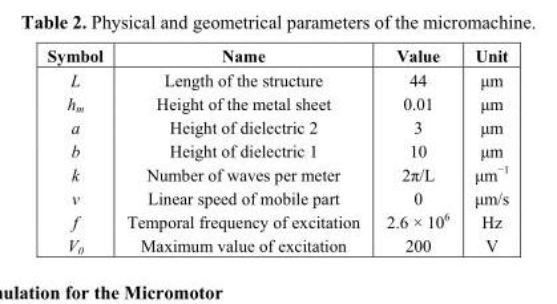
<table><thead><tr><td>Symbol</td><td>Name</td><td>Value</td><td>Unit</td></tr></thead><tbody><tr><td>L</td><td>Length of the structure</td><td>44</td><td>μm</td></tr><tr><td>h<sub>m</sub></td><td>Height of the metal sheet</td><td>0.01</td><td>μm</td></tr><tr><td>a</td><td>Height of dielectric 2</td><td>3</td><td>μm</td></tr><tr><td>b</td><td>Height of dielectric 1</td><td>10</td><td>μm</td></tr><tr><td>k</td><td>Number of waves per meter</td><td>2π/L</td><td>μm<sup>−1</sup></td></tr><tr><td>ν</td><td>Linear speed of mobile part</td><td>0</td><td>μm/s</td></tr><tr><td>f</td><td>Temporal frequency of excitation</td><td>2.6 × 10<sup>6</sup></td><td>Hz</td></tr><tr><td>V<sub>0</sub></td><td>Maximum value of excitation</td><td>200</td><td>V</td></tr></tbody></table>